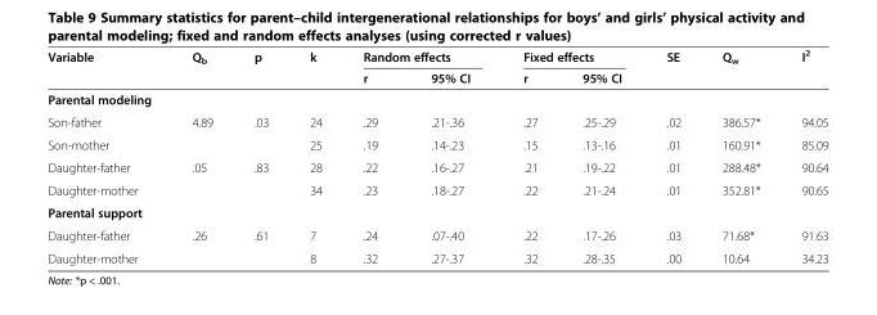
<table><thead><tr><td rowspan="2">Variable</td><td rowspan="2">Q<sub>b</sub></td><td rowspan="2">p</td><td rowspan="2">k</td><td colspan="2">Random effects</td><td colspan="2">Fixed effects</td><td rowspan="2">SE</td><td rowspan="2">Q<sub>w</sub></td><td rowspan="2">I<sup>2</sup></td></tr><tr><td>r</td><td>95% CI</td><td>r</td><td>95% CI</td></tr></thead><tbody><tr><td colspan="11">Parental modeling</td></tr><tr><td>Son-father</td><td>4.89</td><td>.03</td><td>24</td><td>.29</td><td>.21-.36</td><td>.27</td><td>.25-.29</td><td>.02</td><td>386.57*</td><td>94.05</td></tr><tr><td>Son-mother</td><td></td><td></td><td>25</td><td>.19</td><td>.14-.23</td><td>.15</td><td>.13-.16</td><td>.01</td><td>160.91*</td><td>85.09</td></tr><tr><td>Daughter-father</td><td>.05</td><td>.83</td><td>28</td><td>.22</td><td>.16-.27</td><td>.21</td><td>.19-.22</td><td>.01</td><td>288.48*</td><td>90.64</td></tr><tr><td>Daughter-mother</td><td></td><td></td><td>34</td><td>.23</td><td>.18-.27</td><td>.22</td><td>.21-.24</td><td>.01</td><td>352.81*</td><td>90.65</td></tr><tr><td colspan="11">Parental support</td></tr><tr><td>Daughter-father</td><td>.26</td><td>.61</td><td>7</td><td>.24</td><td>.07-.40</td><td>.22</td><td>.17-.26</td><td>.03</td><td>71.68*</td><td>91.63</td></tr><tr><td>Daughter-mother</td><td></td><td></td><td>8</td><td>.32</td><td>.27-.37</td><td>.32</td><td>.28-.35</td><td>.00</td><td>10.64</td><td>34.23</td></tr></tbody></table>